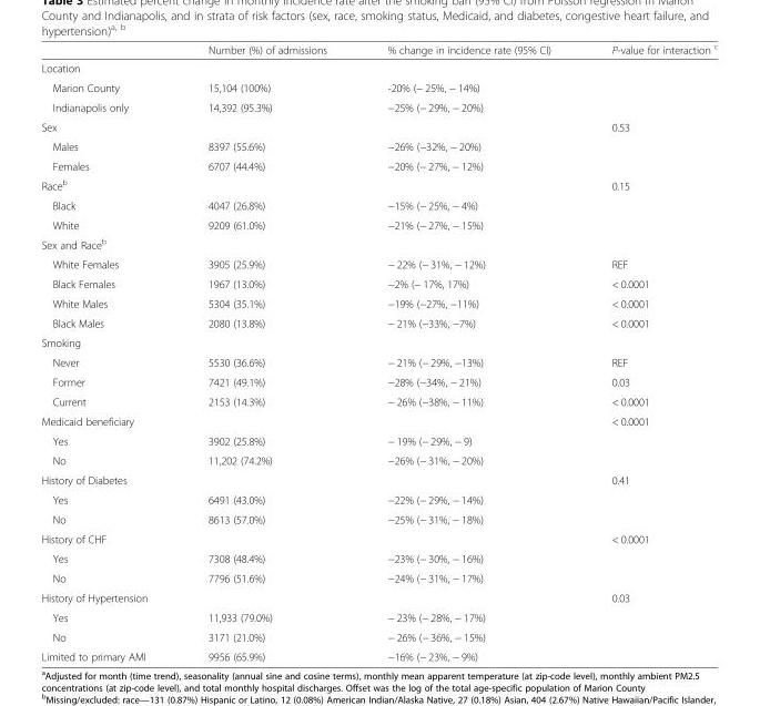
<table><thead><tr><td></td><td>Number (%) of admissions</td><td>% change in incidence rate (95% CI)</td><td>P-value for interaction <sup>c</sup></td></tr></thead><tbody><tr><td colspan="4">Location</td></tr><tr><td>Marion County</td><td>15,104 (100%)</td><td>-20% (− 25%, − 14%)</td><td></td></tr><tr><td>Indianapolis only</td><td>14,392 (95.3%)</td><td>−25% (− 29%, − 20%)</td><td></td></tr><tr><td colspan="3">Sex</td><td rowspan="3">0.53</td></tr><tr><td>Males</td><td>8397 (55.6%)</td><td>−26% (−32%, − 20%)</td></tr><tr><td>Females</td><td>6707 (44.4%)</td><td>−20% (− 27%, − 12%)</td></tr><tr><td colspan="3">Race<sup>b</sup></td><td rowspan="3">0.15</td></tr><tr><td>Black</td><td>4047 (26.8%)</td><td>−15% (− 25%, − 4%)</td></tr><tr><td>White</td><td>9209 (61.0%)</td><td>−21% (− 27%, − 15%)</td></tr><tr><td colspan="4">Sex and Race<sup>b</sup></td></tr><tr><td>White Females</td><td>3905 (25.9%)</td><td>− 22% (− 31%, − 12%)</td><td>REF</td></tr><tr><td>Black Females</td><td>1967 (13.0%)</td><td>−2% (− 17%, 17%)</td><td>&lt; 0.0001</td></tr><tr><td>White Males</td><td>5304 (35.1%)</td><td>−19% (−27%, −11%)</td><td>&lt; 0.0001</td></tr><tr><td>Black Males</td><td>2080 (13.8%)</td><td>− 21% (−33%, −7%)</td><td>&lt; 0.0001</td></tr><tr><td colspan="4">Smoking</td></tr><tr><td>Never</td><td>5530 (36.6%)</td><td>− 21% (− 29%, −13%)</td><td>REF</td></tr><tr><td>Former</td><td>7421 (49.1%)</td><td>−28% (−34%, − 21%)</td><td>0.03</td></tr><tr><td>Current</td><td>2153 (14.3%)</td><td>− 26% (−38%, − 11%)</td><td>&lt; 0.0001</td></tr><tr><td colspan="3">Medicaid beneficiary</td><td rowspan="3">&lt; 0.0001</td></tr><tr><td>Yes</td><td>3902 (25.8%)</td><td>− 19% (− 29%, − 9)</td></tr><tr><td>No</td><td>11,202 (74.2%)</td><td>−26% (− 31%, − 20%)</td></tr><tr><td colspan="3">History of Diabetes</td><td rowspan="3">0.41</td></tr><tr><td>Yes</td><td>6491 (43.0%)</td><td>−22% (− 29%, − 14%)</td></tr><tr><td>No</td><td>8613 (57.0%)</td><td>−25% (− 31%, − 18%)</td></tr><tr><td colspan="3">History of CHF</td><td rowspan="3">&lt; 0.0001</td></tr><tr><td>Yes</td><td>7308 (48.4%)</td><td>−23% (− 30%, − 16%)</td></tr><tr><td>No</td><td>7796 (51.6%)</td><td>−24% (− 31%, − 17%)</td></tr><tr><td colspan="3">History of Hypertension</td><td rowspan="3">0.03</td></tr><tr><td>Yes</td><td>11,933 (79.0%)</td><td>− 23% (− 28%, − 17%)</td></tr><tr><td>No</td><td>3171 (21.0%)</td><td>− 26% (− 36%, − 15%)</td></tr><tr><td>Limited to primary AMI</td><td>9956 (65.9%)</td><td>−16% (− 23%, − 9%)</td><td></td></tr></tbody></table>